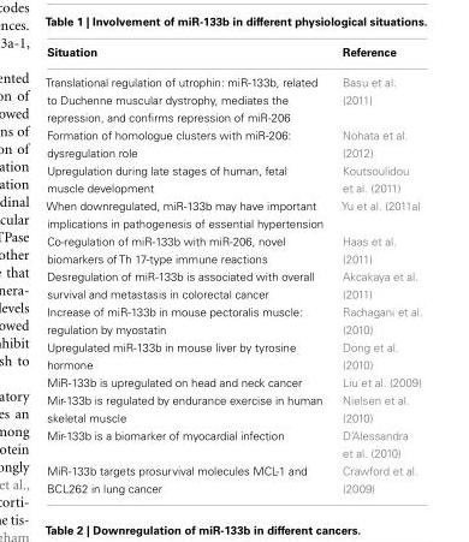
<table><thead><tr><td>Situation</td><td>Reference</td></tr></thead><tbody><tr><td>Translational regulation of utrophin: miR-133b, related to Duchenne muscular dystrophy, mediates the repression, and confirms repression of miR-206</td><td>Basu et al. (2011)</td></tr><tr><td>Formation of homologue clusters with miR-206: dysregulation role</td><td>Nohata et al. (2012)</td></tr><tr><td>Upregulation during late stages of human, fetal muscle development</td><td>Koutsoulidou et al. (2011)</td></tr><tr><td>When downregulated, miR-133b may have important implications in pathogenesis of essential hypertension</td><td>Yu et al. (2011a)</td></tr><tr><td>Co-regulation of miR-133b with miR-206, novel biomarkers of Th 17-type immune reactions</td><td>Haas et al. (2011)</td></tr><tr><td>Desregulation of miR-133b is associated with overall survival and metastasis in colorectal cancer</td><td>Akcakaya et al. (2011)</td></tr><tr><td>Increase of miR-133b in mouse pectoralis muscle: regulation by myostatin</td><td>Rachagani et al. (2010)</td></tr><tr><td>Upregulated miR-133b in mouse liver by tyrosine hormone</td><td>Dong et al. (2010)</td></tr><tr><td>MiR-133b is upregulated on head and neck cancer</td><td>Liu et al. (2009)</td></tr><tr><td>Mir-133b is regulated by endurance exercise in human skeletal muscle</td><td>Nielsen et al. (2010)</td></tr><tr><td>Mir-133b is a biomarker of myocardial infection</td><td>D’Alessandra et al. (2010)</td></tr><tr><td>MiR-133b targets prosurvival molecules MCL-1 and BCL262 in lung cancer</td><td>Crawford et al. (2009)</td></tr></tbody></table>